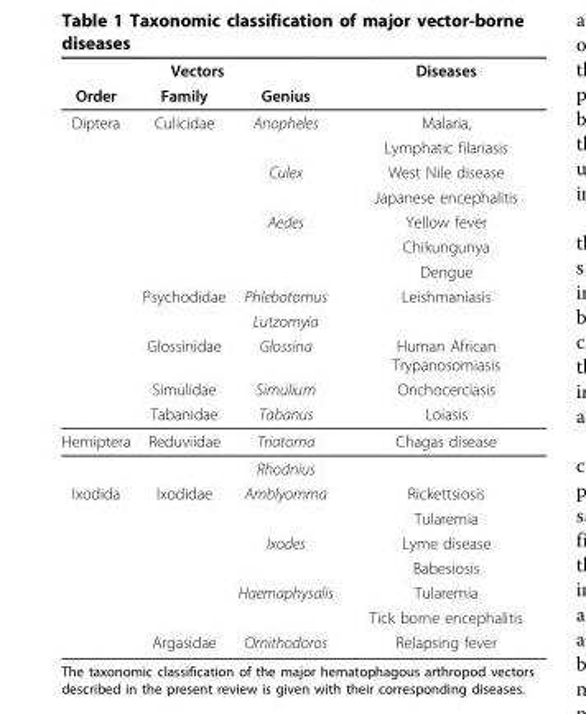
<table><thead><tr><td colspan="3">Vectors</td><td rowspan="2">Diseases</td></tr><tr><td>Order</td><td>Family</td><td>Genius</td></tr></thead><tbody><tr><td rowspan="12">Diptera</td><td>Culicidae</td><td>Anopheles</td><td>Malaria,</td></tr><tr><td></td><td></td><td>Lymphatic filariasis</td></tr><tr><td></td><td>Culex</td><td>West Nile disease</td></tr><tr><td></td><td></td><td>Japanese encephalitis</td></tr><tr><td></td><td>Aedes</td><td>Yellow fever</td></tr><tr><td></td><td></td><td>Chikungunya</td></tr><tr><td></td><td></td><td>Dengue</td></tr><tr><td>Psychodidae</td><td>Phlebotomus</td><td>Leishmaniasis</td></tr><tr><td></td><td>Lutzomyia</td><td></td></tr><tr><td>Glossinidae</td><td>Glossina</td><td>Human African Trypanosomiasis</td></tr><tr><td>Simulidae</td><td>Simulium</td><td>Onchocerciasis</td></tr><tr><td>Tabanidae</td><td>Tabanus</td><td>Loiasis</td></tr><tr><td rowspan="2">Hemiptera</td><td>Reduviidae</td><td>Triatoma</td><td>Chagas disease</td></tr><tr><td></td><td>Rhodnius</td><td></td></tr><tr><td rowspan="7">Ixodida</td><td>Ixodidae</td><td>Amblyomma</td><td>Rickettsiosis</td></tr><tr><td></td><td></td><td>Tularemia</td></tr><tr><td></td><td>Ixodes</td><td>Lyme disease</td></tr><tr><td></td><td></td><td>Babesiosis</td></tr><tr><td></td><td>Haemaphysalis</td><td>Tularemia</td></tr><tr><td></td><td></td><td>Tick borne encephalitis</td></tr><tr><td>Argasidae</td><td>Ornithodoros</td><td>Relapsing fever</td></tr></tbody></table>